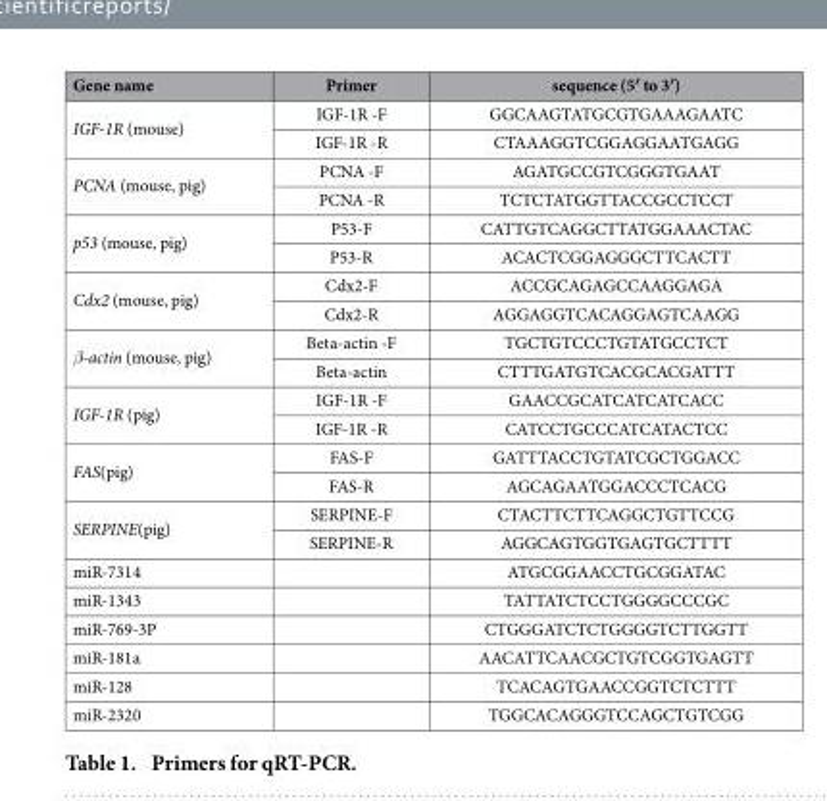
<table><thead><tr><td>Gene name</td><td>Primer</td><td>sequence (5′ to 3′)</td></tr></thead><tbody><tr><td rowspan="2">IGF-1R (mouse)</td><td>IGF-1R -F</td><td>GGCAAGTATGCGTGAAAGAATC</td></tr><tr><td>IGF-1R -R</td><td>CTAAAGGTCGGAGGAATGAGG</td></tr><tr><td rowspan="2">PCNA (mouse, pig)</td><td>PCNA -F</td><td>AGATGCCGTCGGGTGAAT</td></tr><tr><td>PCNA -R</td><td>TCTCTATGGTTACCGCCTCCT</td></tr><tr><td rowspan="2">p53 (mouse, pig)</td><td>P53-F</td><td>CATTGTCAGGCTTATGGAAACTAC</td></tr><tr><td>P53-R</td><td>ACACTCGGAGGGCTTCACTT</td></tr><tr><td rowspan="2">Cdx2 (mouse, pig)</td><td>Cdx2-F</td><td>ACCGCAGAGCCAAGGAGA</td></tr><tr><td>Cdx2-R</td><td>AGGAGGTCACAGGAGTCAAGG</td></tr><tr><td rowspan="2">β-actin (mouse, pig)</td><td>Beta-actin -F</td><td>TGCTGTCCCTGTATGCCTCT</td></tr><tr><td>Beta-actin</td><td>CTTTGATGTCACGCACGATTT</td></tr><tr><td rowspan="2">IGF-1R (pig)</td><td>IGF-1R -F</td><td>GAACCGCATCATCATCACC</td></tr><tr><td>IGF-1R -R</td><td>CATCCTGCCCATCATACTCC</td></tr><tr><td rowspan="2">FAS(pig)</td><td>FAS-F</td><td>GATTTACCTGTATCGCTGGACC</td></tr><tr><td>FAS-R</td><td>AGCAGAATGGACCCTCACG</td></tr><tr><td rowspan="2">SERPINE(pig)</td><td>SERPINE-F</td><td>CTACTTCTTCAGGCTGTTCCG</td></tr><tr><td>SERPINE-R</td><td>AGGCAGTGGTGAGTGCTTTT</td></tr><tr><td>miR-7314</td><td></td><td>ATGCGGAACCTGCGGATAC</td></tr><tr><td>miR-1343</td><td></td><td>TATTATCTCCTGGGGCCCGC</td></tr><tr><td>miR-769-3P</td><td></td><td>CTGGGATCTCTGGGGTCTTGGTT</td></tr><tr><td>miR-181a</td><td></td><td>AACATTCAACGCTGTCGGTGAGTT</td></tr><tr><td>miR-128</td><td></td><td>TCACAGTGAACCGGTCTCTTT</td></tr><tr><td>miR-2320</td><td></td><td>TGGCACAGGGTCCAGCTGTCGG</td></tr></tbody></table>